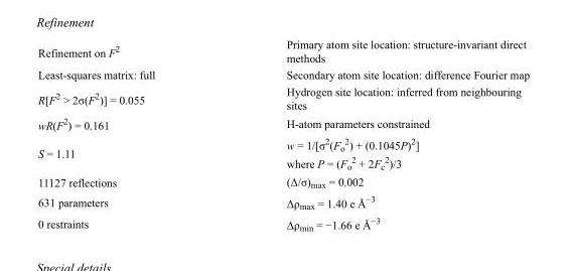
<table><tbody><tr><td>Refinement on F<sup>2</sup></td><td>Primary atom site location: structure-invariant direct methods</td></tr><tr><td>Least-squares matrix: full</td><td>Secondary atom site location: difference Fourier map</td></tr><tr><td>R[F<sup>2</sup> &gt; 2σ(F<sup>2</sup>)] = 0.055</td><td>Hydrogen site location: inferred from neighbouring sites</td></tr><tr><td>wR(F<sup>2</sup>) = 0.161</td><td>H-atom parameters constrained</td></tr><tr><td>S = 1.11</td><td>w = 1/[σ<sup>2</sup>(F<sub>o</sub> <sup>2</sup>) + (0.1045P)<sup>2</sup>] where P = (F<sub>o</sub> <sup>2</sup> + 2F<sub>c</sub> <sup>2</sup>)/3</td></tr><tr><td>11127 reflections</td><td>(Δ/σ)<sub>max</sub> = 0.002</td></tr><tr><td>631 parameters</td><td>Δρ<sub>max</sub> = 1.40 e Å<sup>−3</sup></td></tr><tr><td>0 restraints</td><td>Δρ<sub>min</sub> = −1.66 e Å<sup>−3</sup></td></tr></tbody></table>